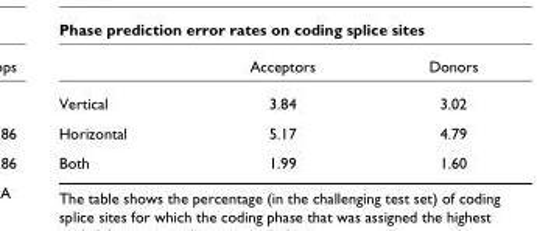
<table><thead><tr><td></td><td>Acceptors</td><td>Donors</td></tr></thead><tbody><tr><td>Vertical</td><td>3.84</td><td>3.02</td></tr><tr><td>Horizontal</td><td>5.17</td><td>4.79</td></tr><tr><td>Both</td><td>1.99</td><td>1.60</td></tr></tbody></table>